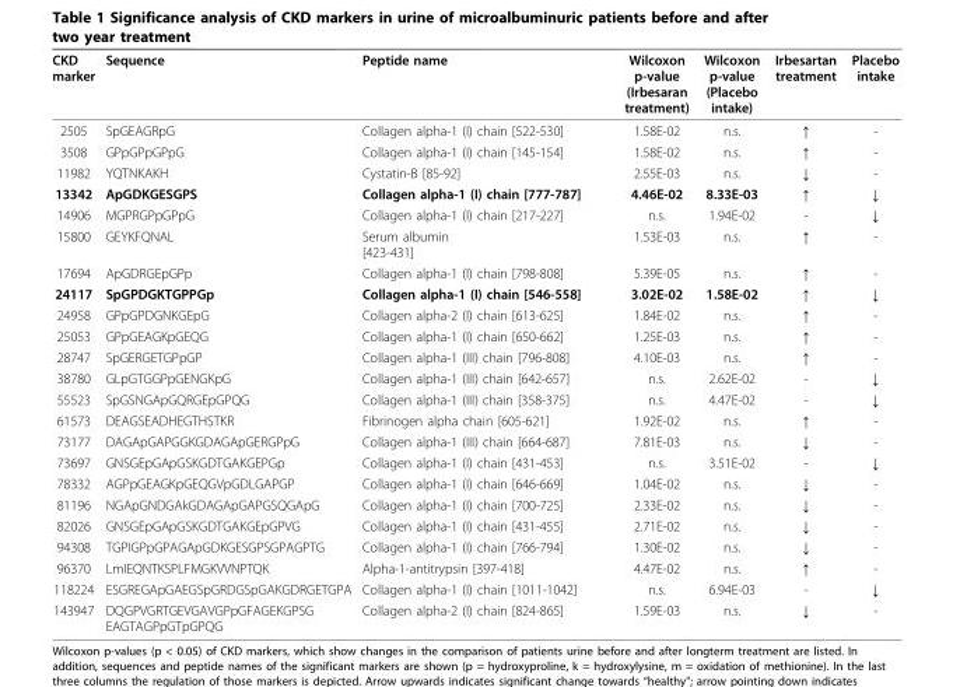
<table><thead><tr><td>CKD marker</td><td>Sequence</td><td>Peptide name</td><td>Wilcoxon p-value (Irbesaran treatment)</td><td>Wilcoxon p-value (Placebo intake)</td><td>Irbesartan treatment</td><td>Placebo intake</td></tr></thead><tbody><tr><td>2505</td><td>SpGEAGRpG</td><td>Collagen alpha-1 (I) chain [522-530]</td><td>1.58E-02</td><td>n.s.</td><td>↑</td><td>-</td></tr><tr><td>3508</td><td>GPpGPpGPpG</td><td>Collagen alpha-1 (I) chain [145-154]</td><td>1.58E-02</td><td>n.s.</td><td>↑</td><td>-</td></tr><tr><td>11982</td><td>YQTNKAKH</td><td>Cystatin-B [85-92]</td><td>2.55E-03</td><td>n.s.</td><td>↓</td><td>-</td></tr><tr><td>13342</td><td>ApGDKGESGPS</td><td>Collagen alpha-1 (I) chain [777-787]</td><td>4.46E-02</td><td>8.33E-03</td><td>↑</td><td>↓</td></tr><tr><td>14906</td><td>MGPRGPpGPpG</td><td>Collagen alpha-1 (I) chain [217-227]</td><td>n.s.</td><td>1.94E-02</td><td>-</td><td>↓</td></tr><tr><td>15800</td><td>GEYKFQNAL</td><td>Serum albumin [423-431]</td><td>1.53E-03</td><td>n.s.</td><td>↑</td><td>-</td></tr><tr><td>17694</td><td>ApGDRGEpGPp</td><td>Collagen alpha-1 (I) chain [798-808]</td><td>5.39E-05</td><td>n.s.</td><td>↑</td><td>-</td></tr><tr><td>24117</td><td>SpGPDGKTGPPGp</td><td>Collagen alpha-1 (I) chain [546-558]</td><td>3.02E-02</td><td>1.58E-02</td><td>↑</td><td>↓</td></tr><tr><td>24958</td><td>GPpGPDGNKGEpG</td><td>Collagen alpha-2 (I) chain [613-625]</td><td>1.84E-02</td><td>n.s.</td><td>↑</td><td>-</td></tr><tr><td>25053</td><td>GPpGEAGKpGEQG</td><td>Collagen alpha-1 (I) chain [650-662]</td><td>1.25E-03</td><td>n.s.</td><td>↑</td><td>-</td></tr><tr><td>28747</td><td>SpGERGETGPpGP</td><td>Collagen alpha-1 (III) chain [796-808]</td><td>4.10E-03</td><td>n.s.</td><td>↑</td><td>-</td></tr><tr><td>38780</td><td>GLpGTGGPpGENGKpG</td><td>Collagen alpha-1 (III) chain [642-657]</td><td>n.s.</td><td>2.62E-02</td><td>-</td><td>↓</td></tr><tr><td>55523</td><td>SpGSNGApGQRGEpGPQG</td><td>Collagen alpha-1 (III) chain [358-375]</td><td>n.s.</td><td>4.47E-02</td><td>-</td><td>↓</td></tr><tr><td>61573</td><td>DEAGSEADHEGTHSTKR</td><td>Fibrinogen alpha chain [605-621]</td><td>1.92E-02</td><td>n.s.</td><td>↑</td><td>-</td></tr><tr><td>73177</td><td>DAGApGAPGGKGDAGApGERGPpG</td><td>Collagen alpha-1 (III) chain [664-687]</td><td>7.81E-03</td><td>n.s.</td><td>↓</td><td>-</td></tr><tr><td>73697</td><td>GNSGEpGApGSKGDTGAKGEPGp</td><td>Collagen alpha-1 (I) chain [431-453]</td><td>n.s.</td><td>3.51E-02</td><td>-</td><td>↓</td></tr><tr><td>78332</td><td>AGPpGEAGKpGEQGVpGDLGAPGP</td><td>Collagen alpha-1 (I) chain [646-669]</td><td>1.04E-02</td><td>n.s.</td><td>↓</td><td>-</td></tr><tr><td>81196</td><td>NGApGNDGAkGDAGApGAPGSQGApG</td><td>Collagen alpha-1 (I) chain [700-725]</td><td>2.33E-02</td><td>n.s.</td><td>↓</td><td>-</td></tr><tr><td>82026</td><td>GNSGEpGApGSKGDTGAKGEpGPVG</td><td>Collagen alpha-1 (I) chain [431-455]</td><td>2.71E-02</td><td>n.s.</td><td>↓</td><td>-</td></tr><tr><td>94308</td><td>TGPIGPpGPAGApGDKGESGPSGPAGPTG</td><td>Collagen alpha-1 (I) chain [766-794]</td><td>1.30E-02</td><td>n.s.</td><td>↓</td><td>-</td></tr><tr><td>96370</td><td>LmIEQNTKSPLFMGKVVNPTQK</td><td>Alpha-1-antitrypsin [397-418]</td><td>4.47E-02</td><td>n.s.</td><td>↑</td><td>-</td></tr><tr><td>118224</td><td>ESGREGApGAEGSpGRDGSpGAKGDRGETGPA</td><td>Collagen alpha-1 (I) chain [1011-1042]</td><td>n.s.</td><td>6.94E-03</td><td>-</td><td>↓</td></tr><tr><td>143947</td><td>DQGPVGRTGEVGAVGPpGFAGEKGPSG EAGTAGPpGTpGPQG</td><td>Collagen alpha-2 (I) chain [824-865]</td><td>1.59E-03</td><td>n.s.</td><td>↓</td><td>-</td></tr></tbody></table>